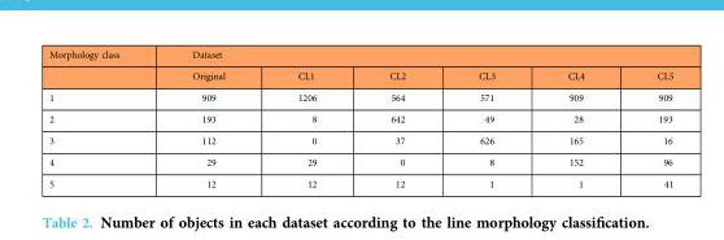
<table><thead><tr><td rowspan="2">Morphology class</td><td colspan="6">Dataset</td></tr><tr><td>Original</td><td>CL1</td><td>CL2</td><td>CL3</td><td>CL4</td><td>CL5</td></tr></thead><tbody><tr><td>1</td><td>909</td><td>1206</td><td>564</td><td>571</td><td>909</td><td>909</td></tr><tr><td>2</td><td>193</td><td>8</td><td>642</td><td>49</td><td>28</td><td>193</td></tr><tr><td>3</td><td>112</td><td>0</td><td>37</td><td>626</td><td>165</td><td>16</td></tr><tr><td>4</td><td>29</td><td>29</td><td>0</td><td>8</td><td>152</td><td>96</td></tr><tr><td>5</td><td>12</td><td>12</td><td>12</td><td>1</td><td>1</td><td>41</td></tr></tbody></table>